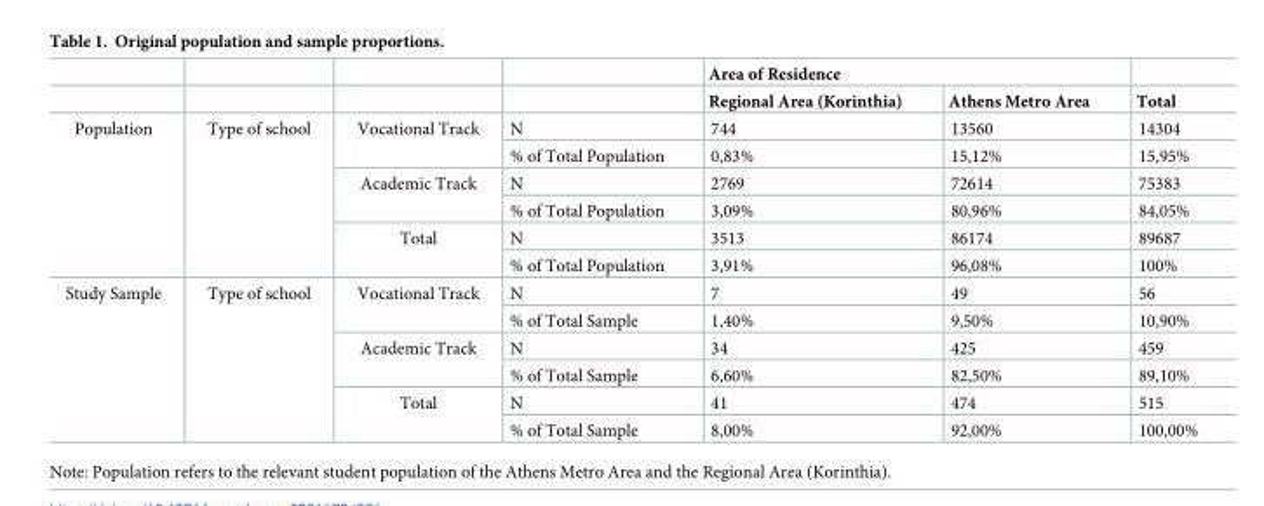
<table><thead><tr><td rowspan="2"></td><td rowspan="2"></td><td rowspan="2"></td><td rowspan="2"></td><td colspan="2">Area of Residence</td><td rowspan="2">Total</td></tr><tr><td>Regional Area (Korinthia)</td><td>Athens Metro Area</td></tr></thead><tbody><tr><td rowspan="6">Population</td><td rowspan="6">Type of school</td><td rowspan="2">Vocational Track</td><td>N</td><td>744</td><td>13560</td><td>14304</td></tr><tr><td>% of Total Population</td><td>0,83%</td><td>15,12%</td><td>15,95%</td></tr><tr><td rowspan="2">Academic Track</td><td>N</td><td>2769</td><td>72614</td><td>75383</td></tr><tr><td>% of Total Population</td><td>3,09%</td><td>80,96%</td><td>84,05%</td></tr><tr><td rowspan="2">Total</td><td>N</td><td>3513</td><td>86174</td><td>89687</td></tr><tr><td>% of Total Population</td><td>3,91%</td><td>96,08%</td><td>100%</td></tr><tr><td rowspan="6">Study Sample</td><td rowspan="6">Type of school</td><td rowspan="2">Vocational Track</td><td>N</td><td>7</td><td>49</td><td>56</td></tr><tr><td>% of Total Sample</td><td>1,40%</td><td>9,50%</td><td>10,90%</td></tr><tr><td rowspan="2">Academic Track</td><td>N</td><td>34</td><td>425</td><td>459</td></tr><tr><td>% of Total Sample</td><td>6,60%</td><td>82,50%</td><td>89,10%</td></tr><tr><td rowspan="2">Total</td><td>N</td><td>41</td><td>474</td><td>515</td></tr><tr><td>% of Total Sample</td><td>8,00%</td><td>92,00%</td><td>100,00%</td></tr></tbody></table>